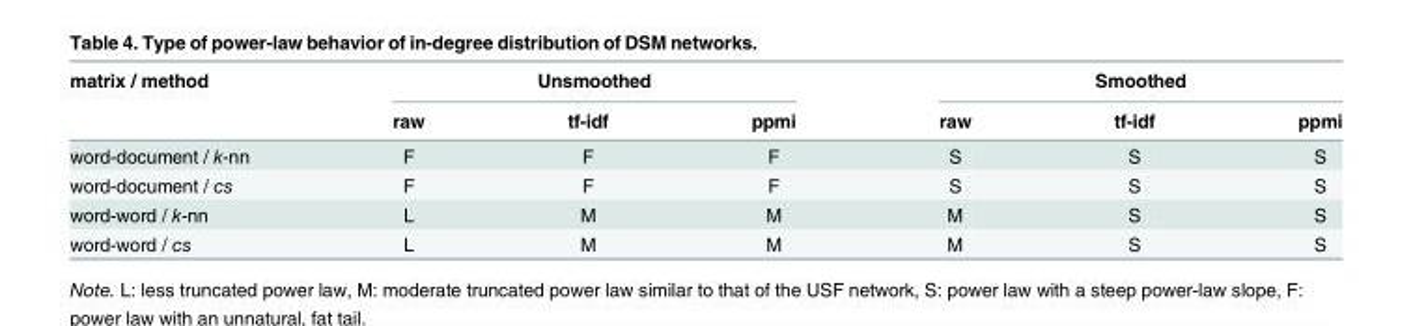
<table><thead><tr><td rowspan="2">matrix / method</td><td colspan="3">Unsmoothed</td><td colspan="3">Smoothed</td></tr><tr><td>raw</td><td>tf-idf</td><td>ppmi</td><td>raw</td><td>tf-idf</td><td>ppmi</td></tr></thead><tbody><tr><td>word-document / k-nn</td><td>F</td><td>F</td><td>F</td><td>S</td><td>S</td><td>S</td></tr><tr><td>word-document / cs</td><td>F</td><td>F</td><td>F</td><td>S</td><td>S</td><td>S</td></tr><tr><td>word-word / k-nn</td><td>L</td><td>M</td><td>M</td><td>M</td><td>S</td><td>S</td></tr><tr><td>word-word / cs</td><td>L</td><td>M</td><td>M</td><td>M</td><td>S</td><td>S</td></tr></tbody></table>